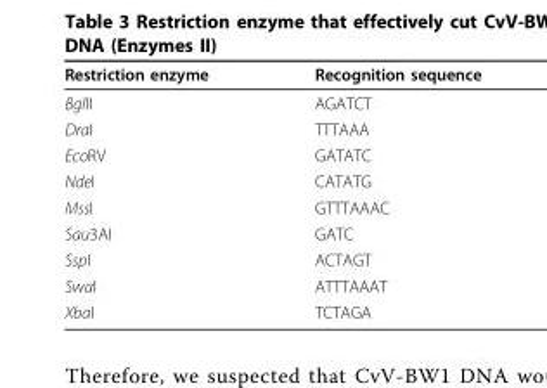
<table><thead><tr><td>Restriction enzyme</td><td>Recognition sequence</td></tr></thead><tbody><tr><td>BglII</td><td>AGATCT</td></tr><tr><td>DraI</td><td>TTTAAA</td></tr><tr><td>EcoRV</td><td>GATATC</td></tr><tr><td>NdeI</td><td>CATATG</td></tr><tr><td>MssI</td><td>GTTTAAAC</td></tr><tr><td>Sau3AI</td><td>GATC</td></tr><tr><td>SspI</td><td>ACTAGT</td></tr><tr><td>SwaI</td><td>ATTTAAAT</td></tr><tr><td>XbaI</td><td>TCTAGA</td></tr></tbody></table>